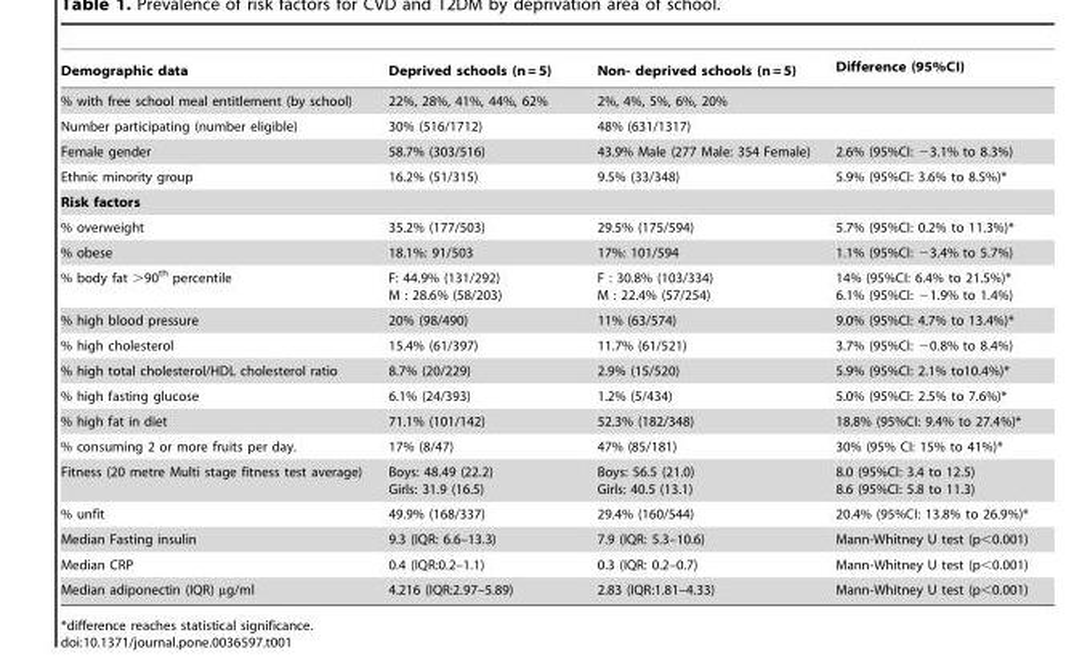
<table><thead><tr><td>Demographic data</td><td>Deprived schools (n = 5)</td><td>Non- deprived schools (n = 5)</td><td>Difference (95%CI)</td></tr></thead><tbody><tr><td>% with free school meal entitlement (by school)</td><td>22%, 28%, 41%, 44%, 62%</td><td colspan="2">2%, 4%, 5%, 6%, 20%</td></tr><tr><td>Number participating (number eligible)</td><td>30% (516/1712)</td><td colspan="2">48% (631/1317)</td></tr><tr><td>Female gender</td><td>58.7% (303/516)</td><td>43.9% Male (277 Male: 354 Female)</td><td>2.6% (95%CI: −3.1% to 8.3%)</td></tr><tr><td>Ethnic minority group</td><td>16.2% (51/315)</td><td>9.5% (33/348)</td><td>5.9% (95%CI: 3.6% to 8.5%)*</td></tr><tr><td colspan="4">Risk factors</td></tr><tr><td>% overweight</td><td>35.2% (177/503)</td><td>29.5% (175/594)</td><td>5.7% (95%CI: 0.2% to 11.3%)*</td></tr><tr><td>% obese</td><td>18.1%: 91/503</td><td>17%: 101/594</td><td>1.1% (95%CI: −3.4% to 5.7%)</td></tr><tr><td>% body fat &gt;90<sup>th</sup> percentile</td><td>F: 44.9% (131/292) M : 28.6% (58/203)</td><td>F : 30.8% (103/334) M : 22.4% (57/254)</td><td>14% (95%CI: 6.4% to 21.5%)* 6.1% (95%CI: −1.9% to 1.4%)</td></tr><tr><td>% high blood pressure</td><td>20% (98/490)</td><td>11% (63/574)</td><td>9.0% (95%CI: 4.7% to 13.4%)*</td></tr><tr><td>% high cholesterol</td><td>15.4% (61/397)</td><td>11.7% (61/521)</td><td>3.7% (95%CI: −0.8% to 8.4%)</td></tr><tr><td>% high total cholesterol/HDL cholesterol ratio</td><td>8.7% (20/229)</td><td>2.9% (15/520)</td><td>5.9% (95%CI: 2.1% to10.4%)*</td></tr><tr><td>% high fasting glucose</td><td>6.1% (24/393)</td><td>1.2% (5/434)</td><td>5.0% (95%CI: 2.5% to 7.6%)*</td></tr><tr><td>% high fat in diet</td><td>71.1% (101/142)</td><td>52.3% (182/348)</td><td>18.8% (95%CI: 9.4% to 27.4%)*</td></tr><tr><td>% consuming 2 or more fruits per day.</td><td>17% (8/47)</td><td>47% (85/181)</td><td>30% (95% CI: 15% to 41%)*</td></tr><tr><td>Fitness (20 metre Multi stage fitness test average)</td><td>Boys: 48.49 (22.2) Girls: 31.9 (16.5)</td><td>Boys: 56.5 (21.0) Girls: 40.5 (13.1)</td><td>8.0 (95%CI: 3.4 to 12.5) 8.6 (95%CI: 5.8 to 11.3)</td></tr><tr><td>% unfit</td><td>49.9% (168/337)</td><td>29.4% (160/544)</td><td>20.4% (95%CI: 13.8% to 26.9%)*</td></tr><tr><td>Median Fasting insulin</td><td>9.3 (IQR: 6.6–13.3)</td><td>7.9 (IQR: 5.3–10.6)</td><td>Mann-Whitney U test (p&lt;0.001)</td></tr><tr><td>Median CRP</td><td>0.4 (IQR:0.2–1.1)</td><td>0.3 (IQR: 0.2–0.7)</td><td>Mann-Whitney U test (p&lt;0.001)</td></tr><tr><td>Median adiponectin (IQR) µg/ml</td><td>4.216 (IQR:2.97–5.89)</td><td>2.83 (IQR:1.81–4.33)</td><td>Mann-Whitney U test (p&lt;0.001)</td></tr></tbody></table>